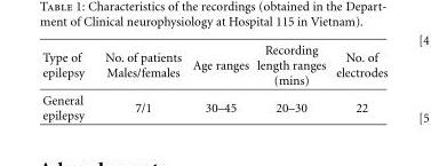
<table><thead><tr><td>Type of epilepsy</td><td>No. of patients Males/females</td><td>Age ranges</td><td>Recording length ranges (mins)</td><td>No. of electrodes</td></tr></thead><tbody><tr><td>General epilepsy</td><td>7/1</td><td>30–45</td><td>20–30</td><td>22</td></tr></tbody></table>